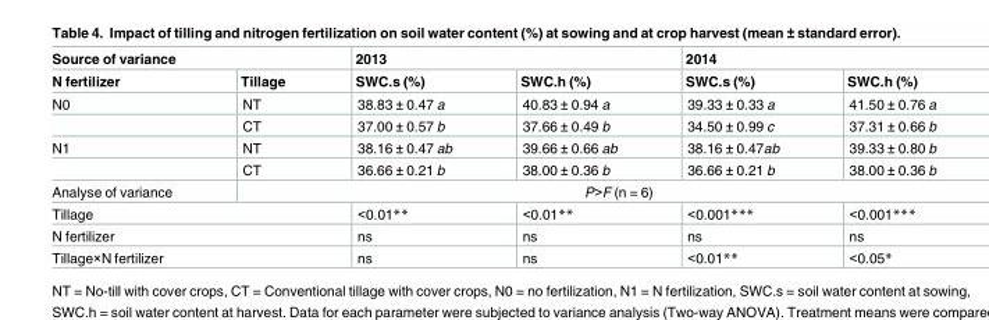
<table><thead><tr><td colspan="2">Source of variance</td><td colspan="2">2013</td><td colspan="2">2014</td></tr><tr><td>N fertilizer</td><td>Tillage</td><td>SWC.s (%)</td><td>SWC.h (%)</td><td>SWC.s (%)</td><td>SWC.h (%)</td></tr></thead><tbody><tr><td rowspan="2">N0</td><td>NT</td><td>38.83 ± 0.47 a</td><td>40.83 ± 0.94 a</td><td>39.33 ± 0.33 a</td><td>41.50 ± 0.76 a</td></tr><tr><td>CT</td><td>37.00 ± 0.57 b</td><td>37.66 ± 0.49 b</td><td>34.50 ± 0.99 c</td><td>37.31 ± 0.66 b</td></tr><tr><td rowspan="2">N1</td><td>NT</td><td>38.16 ± 0.47 ab</td><td>39.66 ± 0.66 ab</td><td>38.16 ± 0.47ab</td><td>39.33 ± 0.80 b</td></tr><tr><td>CT</td><td>36.66 ± 0.21 b</td><td>38.00 ± 0.36 b</td><td>36.66 ± 0.21 b</td><td>38.00 ± 0.36 b</td></tr><tr><td>Analyse of variance</td><td colspan="5">P&gt;F (n = 6)</td></tr><tr><td colspan="2">Tillage</td><td>&lt;0.01**</td><td>&lt;0.01**</td><td>&lt;0.001***</td><td>&lt;0.001***</td></tr><tr><td colspan="2">N fertilizer</td><td>ns</td><td>ns</td><td>ns</td><td>ns</td></tr><tr><td colspan="2">Tillage×N fertilizer</td><td>ns</td><td>ns</td><td>&lt;0.01**</td><td>&lt;0.05*</td></tr></tbody></table>